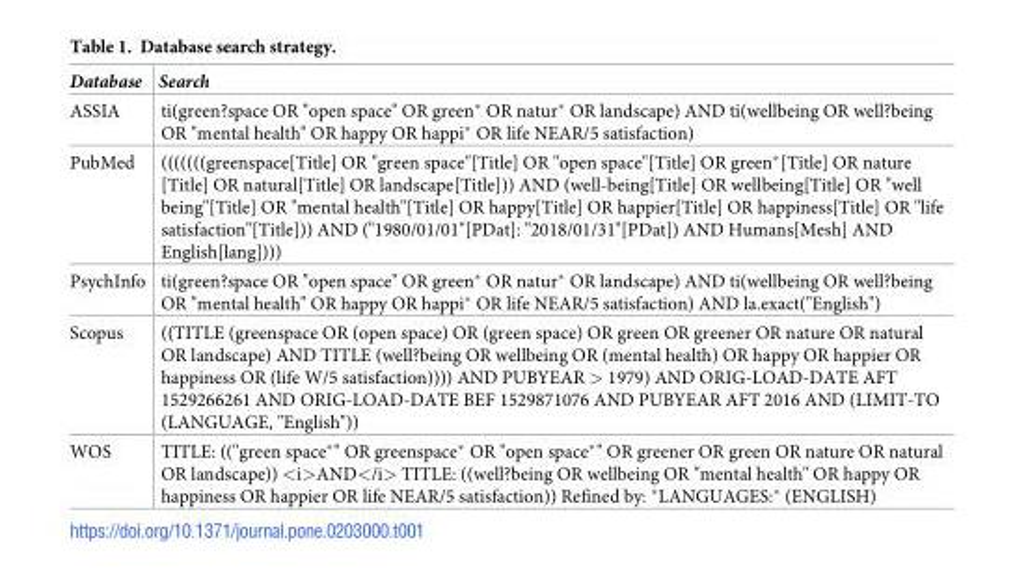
<table><thead><tr><td>Database</td><td>Search</td></tr></thead><tbody><tr><td>ASSIA</td><td>ti(green?space OR &quot;open space&quot; OR green* OR natur* OR landscape) AND ti(wellbeing OR well?being OR &quot;mental health&quot; OR happy OR happi* OR life NEAR/5 satisfaction)</td></tr><tr><td>PubMed</td><td>(((((((greenspace[Title] OR &quot;green space&quot;[Title] OR &quot;open space&quot;[Title] OR green*[Title] OR nature [Title] OR natural[Title] OR landscape[Title])) AND (well-being[Title] OR wellbeing[Title] OR &quot;well being&quot;[Title] OR &quot;mental health&quot;[Title] OR happy[Title] OR happier[Title] OR happiness[Title] OR &quot;life satisfaction&quot;[Title])) AND (&quot;1980/01/01&quot;[PDat]: &quot;2018/01/31&quot;[PDat]) AND Humans[Mesh] AND English[lang])))</td></tr><tr><td>PsychInfo</td><td>ti(green?space OR &quot;open space&quot; OR green* OR natur* OR landscape) AND ti(wellbeing OR well?being OR &quot;mental health&quot; OR happy OR happi* OR life NEAR/5 satisfaction) AND la.exact(&quot;English&quot;)</td></tr><tr><td>Scopus</td><td>((TITLE (greenspace OR (open space) OR (green space) OR green OR greener OR nature OR natural OR landscape) AND TITLE (well?being OR wellbeing OR (mental health) OR happy OR happier OR happiness OR (life W/5 satisfaction)))) AND PUBYEAR &gt; 1979) AND ORIG-LOAD-DATE AFT 1529266261 AND ORIG-LOAD-DATE BEF 1529871076 AND PUBYEAR AFT 2016 AND (LIMIT-TO (LANGUAGE, &quot;English&quot;))</td></tr><tr><td>WOS</td><td>TITLE: ((&quot;green space*&quot; OR greenspace* OR &quot;open space*&quot; OR greener OR green OR nature OR natural OR landscape)) &lt;i&gt;AND&lt;/i&gt; TITLE: ((well?being OR wellbeing OR &quot;mental health&quot; OR happy OR happiness OR happier OR life NEAR/5 satisfaction)) Refined by: *LANGUAGES:* (ENGLISH)</td></tr></tbody></table>